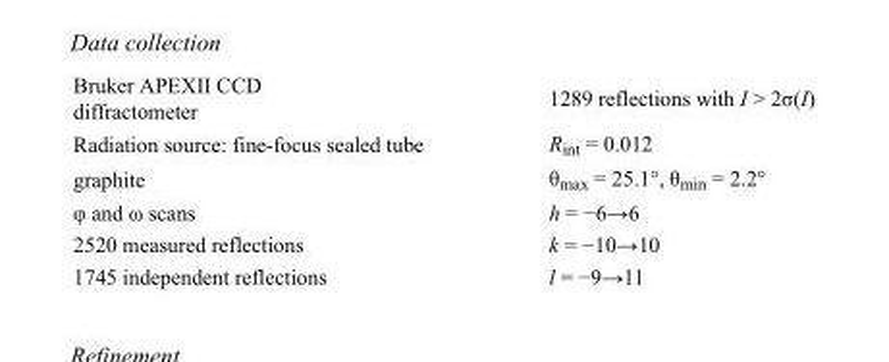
<table><tbody><tr><td>Bruker APEXII CCD diffractometer</td><td>1289 reflections with I &gt; 2σ(I)</td></tr><tr><td>Radiation source: fine-focus sealed tube</td><td>R<sub>int</sub> = 0.012</td></tr><tr><td>graphite</td><td>θ<sub>max</sub> = 25.1°, θ<sub>min</sub> = 2.2°</td></tr><tr><td>φ and ω scans</td><td>h = −6→6</td></tr><tr><td>2520 measured reflections</td><td>k = −10→10</td></tr><tr><td>1745 independent reflections</td><td>l = −9→11</td></tr></tbody></table>